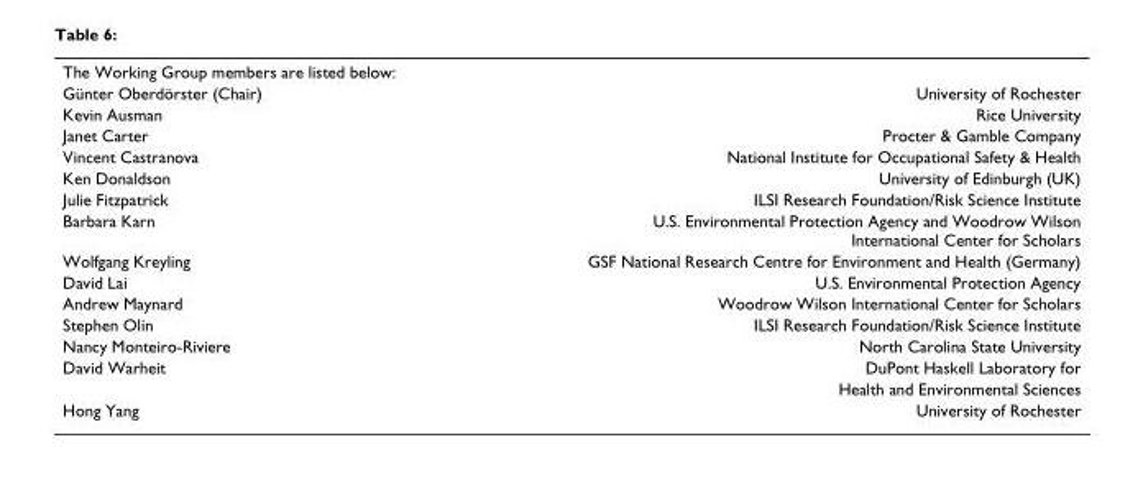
<table><tbody><tr><td colspan="2">The Working Group members are listed below:</td></tr><tr><td>Günter Oberdörster (Chair)</td><td>University of Rochester</td></tr><tr><td>Kevin Ausman</td><td>Rice University</td></tr><tr><td>Janet Carter</td><td>Procter &amp; Gamble Company</td></tr><tr><td>Vincent Castranova</td><td>National Institute for Occupational Safety &amp; Health</td></tr><tr><td>Ken Donaldson</td><td>University of Edinburgh (UK)</td></tr><tr><td>Julie Fitzpatrick</td><td>ILSI Research Foundation/Risk Science Institute</td></tr><tr><td>Barbara Karn</td><td>U.S. Environmental Protection Agency and Woodrow Wilson International Center for Scholars</td></tr><tr><td>Wolfgang Kreyling</td><td>GSF National Research Centre for Environment and Health (Germany)</td></tr><tr><td>David Lai</td><td>U.S. Environmental Protection Agency</td></tr><tr><td>Andrew Maynard</td><td>Woodrow Wilson International Center for Scholars</td></tr><tr><td>Stephen Olin</td><td>ILSI Research Foundation/Risk Science Institute</td></tr><tr><td>Nancy Monteiro-Riviere</td><td>North Carolina State University</td></tr><tr><td rowspan="2">David Warheit</td><td>DuPont Haskell Laboratory for</td></tr><tr><td>Health and Environmental Sciences</td></tr><tr><td>Hong Yang</td><td>University of Rochester</td></tr></tbody></table>